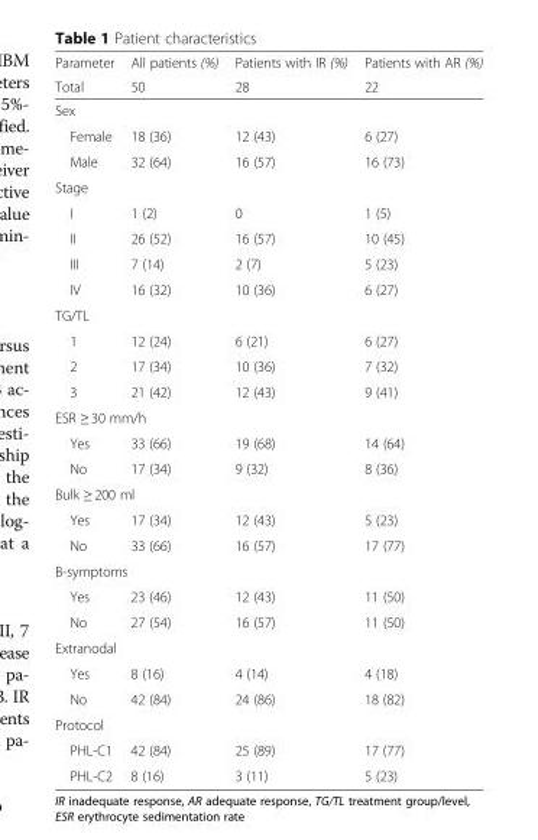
<table><thead><tr><td rowspan="2">Parameter Total</td><td rowspan="2">All patients (%) 50</td><td rowspan="2">Patients with IR (%) 28</td><td rowspan="2">Patients with AR (%) 22</td></tr><tr></tr></thead><tbody><tr><td colspan="4">Sex</td></tr><tr><td>Female</td><td>18 (36)</td><td>12 (43)</td><td>6 (27)</td></tr><tr><td>Male</td><td>32 (64)</td><td>16 (57)</td><td>16 (73)</td></tr><tr><td colspan="4">Stage</td></tr><tr><td>I</td><td>1 (2)</td><td>0</td><td>1 (5)</td></tr><tr><td>II</td><td>26 (52)</td><td>16 (57)</td><td>10 (45)</td></tr><tr><td>III</td><td>7 (14)</td><td>2 (7)</td><td>5 (23)</td></tr><tr><td>IV</td><td>16 (32)</td><td>10 (36)</td><td>6 (27)</td></tr><tr><td colspan="4">TG/TL</td></tr><tr><td>1</td><td>12 (24)</td><td>6 (21)</td><td>6 (27)</td></tr><tr><td>2</td><td>17 (34)</td><td>10 (36)</td><td>7 (32)</td></tr><tr><td>3</td><td>21 (42)</td><td>12 (43)</td><td>9 (41)</td></tr><tr><td colspan="4">ESR ≥ 30 mm/h</td></tr><tr><td>Yes</td><td>33 (66)</td><td>19 (68)</td><td>14 (64)</td></tr><tr><td>No</td><td>17 (34)</td><td>9 (32)</td><td>8 (36)</td></tr><tr><td colspan="4">Bulk ≥ 200 ml</td></tr><tr><td>Yes</td><td>17 (34)</td><td>12 (43)</td><td>5 (23)</td></tr><tr><td>No</td><td>33 (66)</td><td>16 (57)</td><td>17 (77)</td></tr><tr><td colspan="4">B-symptoms</td></tr><tr><td>Yes</td><td>23 (46)</td><td>12 (43)</td><td>11 (50)</td></tr><tr><td>No</td><td>27 (54)</td><td>16 (57)</td><td>11 (50)</td></tr><tr><td colspan="4">Extranodal</td></tr><tr><td>Yes</td><td>8 (16)</td><td>4 (14)</td><td>4 (18)</td></tr><tr><td>No</td><td>42 (84)</td><td>24 (86)</td><td>18 (82)</td></tr><tr><td colspan="4">Protocol</td></tr><tr><td>PHL-C1</td><td>42 (84)</td><td>25 (89)</td><td>17 (77)</td></tr><tr><td>PHL-C2</td><td>8 (16)</td><td>3 (11)</td><td>5 (23)</td></tr></tbody></table>